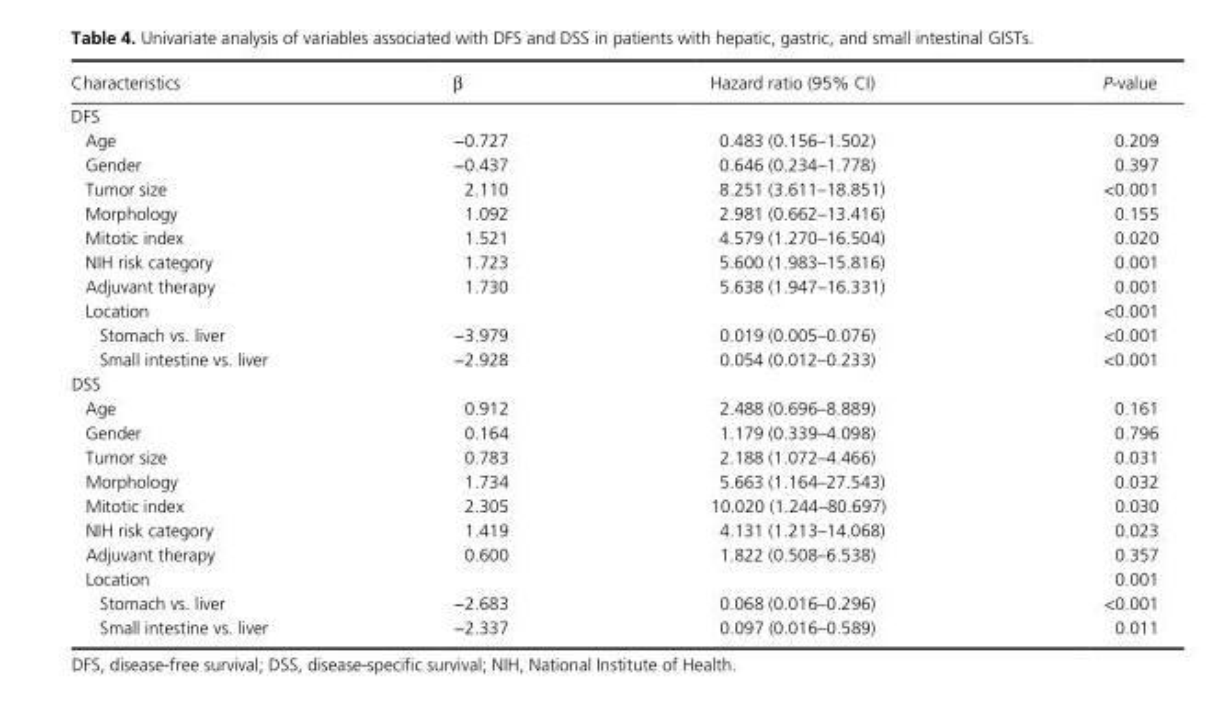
<table><thead><tr><td>Characteristics</td><td>β</td><td>Hazard ratio (95% CI)</td><td>P- value</td></tr></thead><tbody><tr><td colspan="4">DFS</td></tr><tr><td>Age</td><td>−0.727</td><td>0.483 (0.156–1.502)</td><td>0.209</td></tr><tr><td>Gender</td><td>−0.437</td><td>0.646 (0.234–1.778)</td><td>0.397</td></tr><tr><td>Tumor size</td><td>2.110</td><td>8.251 (3.611–18.851)</td><td>&lt;0.001</td></tr><tr><td>Morphology</td><td>1.092</td><td>2.981 (0.662–13.416)</td><td>0.155</td></tr><tr><td>Mitotic index</td><td>1.521</td><td>4.579 (1.270–16.504)</td><td>0.020</td></tr><tr><td>NIH risk category</td><td>1.723</td><td>5.600 (1.983–15.816)</td><td>0.001</td></tr><tr><td>Adjuvant therapy</td><td>1.730</td><td>5.638 (1.947–16.331)</td><td>0.001</td></tr><tr><td>Location</td><td></td><td></td><td>&lt;0.001</td></tr><tr><td>Stomach vs. liver</td><td>−3.979</td><td>0.019 (0.005–0.076)</td><td>&lt;0.001</td></tr><tr><td>Small intestine vs. liver</td><td>−2.928</td><td>0.054 (0.012–0.233)</td><td>&lt;0.001</td></tr><tr><td colspan="4">DSS</td></tr><tr><td>Age</td><td>0.912</td><td>2.488 (0.696–8.889)</td><td>0.161</td></tr><tr><td>Gender</td><td>0.164</td><td>1.179 (0.339–4.098)</td><td>0.796</td></tr><tr><td>Tumor size</td><td>0.783</td><td>2.188 (1.072–4.466)</td><td>0.031</td></tr><tr><td>Morphology</td><td>1.734</td><td>5.663 (1.164–27.543)</td><td>0.032</td></tr><tr><td>Mitotic index</td><td>2.305</td><td>10.020 (1.244–80.697)</td><td>0.030</td></tr><tr><td>NIH risk category</td><td>1.419</td><td>4.131 (1.213–14.068)</td><td>0.023</td></tr><tr><td>Adjuvant therapy</td><td>0.600</td><td>1.822 (0.508–6.538)</td><td>0.357</td></tr><tr><td>Location</td><td></td><td></td><td>0.001</td></tr><tr><td>Stomach vs. liver</td><td>−2.683</td><td>0.068 (0.016–0.296)</td><td>&lt;0.001</td></tr><tr><td>Small intestine vs. liver</td><td>−2.337</td><td>0.097 (0.016–0.589)</td><td>0.011</td></tr></tbody></table>